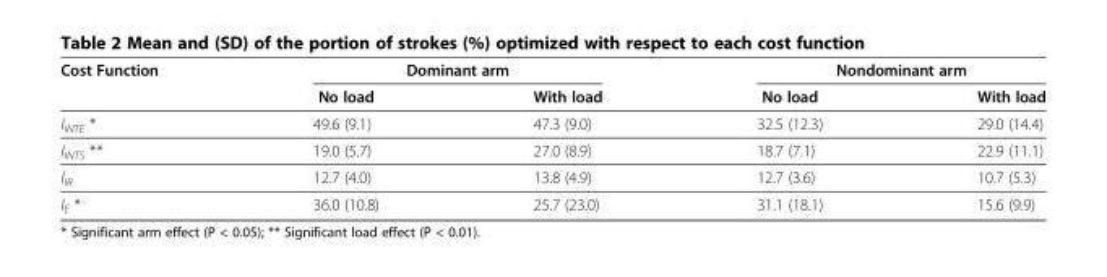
<table><thead><tr><td rowspan="2">Cost Function</td><td colspan="2">Dominant arm</td><td colspan="2">Nondominant arm</td></tr><tr><td>No load</td><td>With load</td><td>No load</td><td>With load</td></tr></thead><tbody><tr><td>I<sub>INTE</sub> *</td><td>49.6 (9.1)</td><td>47.3 (9.0)</td><td>32.5 (12.3)</td><td>29.0 (14.4)</td></tr><tr><td>I<sub>INTS</sub> **</td><td>19.0 (5.7)</td><td>27.0 (8.9)</td><td>18.7 (7.1)</td><td>22.9 (11.1)</td></tr><tr><td>I<sub>IR</sub></td><td>12.7 (4.0)</td><td>13.8 (4.9)</td><td>12.7 (3.6)</td><td>10.7 (5.3)</td></tr><tr><td>I<sub>E</sub> *</td><td>36.0 (10.8)</td><td>25.7 (23.0)</td><td>31.1 (18.1)</td><td>15.6 (9.9)</td></tr></tbody></table>